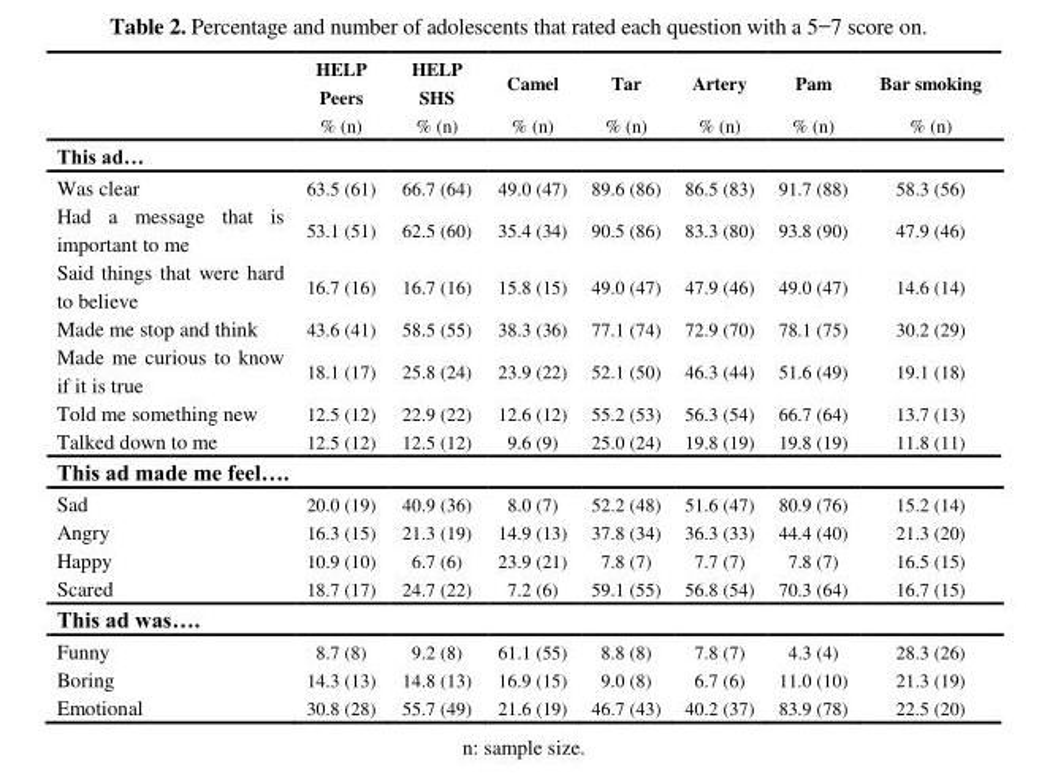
<table><thead><tr><td rowspan="2"></td><td rowspan="2">HELP Peers % (n)</td><td rowspan="2">HELP SHS % (n)</td><td rowspan="2">Camel % (n)</td><td rowspan="2">Tar % (n)</td><td rowspan="2">Artery % (n)</td><td rowspan="2">Pam % (n)</td><td rowspan="2">Bar smoking % (n)</td></tr><tr></tr></thead><tbody><tr><td colspan="8">This ad…</td></tr><tr><td>Was clear</td><td>63.5 (61)</td><td>66.7 (64)</td><td>49.0 (47)</td><td>89.6 (86)</td><td>86.5 (83)</td><td>91.7 (88)</td><td>58.3 (56)</td></tr><tr><td>Had a message that is important to me</td><td>53.1 (51)</td><td>62.5 (60)</td><td>35.4 (34)</td><td>90.5 (86)</td><td>83.3 (80)</td><td>93.8 (90)</td><td>47.9 (46)</td></tr><tr><td>Said things that were hard to believe</td><td>16.7 (16)</td><td>16.7 (16)</td><td>15.8 (15)</td><td>49.0 (47)</td><td>47.9 (46)</td><td>49.0 (47)</td><td>14.6 (14)</td></tr><tr><td>Made me stop and think</td><td>43.6 (41)</td><td>58.5 (55)</td><td>38.3 (36)</td><td>77.1 (74)</td><td>72.9 (70)</td><td>78.1 (75)</td><td>30.2 (29)</td></tr><tr><td>Made me curious to know if it is true</td><td>18.1 (17)</td><td>25.8 (24)</td><td>23.9 (22)</td><td>52.1 (50)</td><td>46.3 (44)</td><td>51.6 (49)</td><td>19.1 (18)</td></tr><tr><td>Told me something new</td><td>12.5 (12)</td><td>22.9 (22)</td><td>12.6 (12)</td><td>55.2 (53)</td><td>56.3 (54)</td><td>66.7 (64)</td><td>13.7 (13)</td></tr><tr><td>Talked down to me</td><td>12.5 (12)</td><td>12.5 (12)</td><td>9.6 (9)</td><td>25.0 (24)</td><td>19.8 (19)</td><td>19.8 (19)</td><td>11.8 (11)</td></tr><tr><td colspan="8">This ad made me feel….</td></tr><tr><td>Sad</td><td>20.0 (19)</td><td>40.9 (36)</td><td>8.0 (7)</td><td>52.2 (48)</td><td>51.6 (47)</td><td>80.9 (76)</td><td>15.2 (14)</td></tr><tr><td>Angry</td><td>16.3 (15)</td><td>21.3 (19)</td><td>14.9 (13)</td><td>37.8 (34)</td><td>36.3 (33)</td><td>44.4 (40)</td><td>21.3 (20)</td></tr><tr><td>Happy</td><td>10.9 (10)</td><td>6.7 (6)</td><td>23.9 (21)</td><td>7.8 (7)</td><td>7.7 (7)</td><td>7.8 (7)</td><td>16.5 (15)</td></tr><tr><td>Scared</td><td>18.7 (17)</td><td>24.7 (22)</td><td>7.2 (6)</td><td>59.1 (55)</td><td>56.8 (54)</td><td>70.3 (64)</td><td>16.7 (15)</td></tr><tr><td colspan="8">This ad was….</td></tr><tr><td>Funny</td><td>8.7 (8)</td><td>9.2 (8)</td><td>61.1 (55)</td><td>8.8 (8)</td><td>7.8 (7)</td><td>4.3 (4)</td><td>28.3 (26)</td></tr><tr><td>Boring</td><td>14.3 (13)</td><td>14.8 (13)</td><td>16.9 (15)</td><td>9.0 (8)</td><td>6.7 (6)</td><td>11.0 (10)</td><td>21.3 (19)</td></tr><tr><td>Emotional</td><td>30.8 (28)</td><td>55.7 (49)</td><td>21.6 (19)</td><td>46.7 (43)</td><td>40.2 (37)</td><td>83.9 (78)</td><td>22.5 (20)</td></tr></tbody></table>